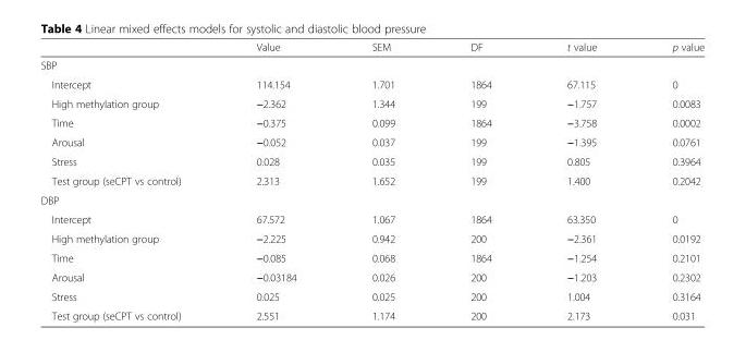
<table><thead><tr><td></td><td>Value</td><td>SEM</td><td>DF</td><td>t value</td><td>p value</td></tr></thead><tbody><tr><td colspan="6">SBP</td></tr><tr><td>Intercept</td><td>114.154</td><td>1.701</td><td>1864</td><td>67.115</td><td>0</td></tr><tr><td>High methylation group</td><td>−2.362</td><td>1.344</td><td>199</td><td>−1.757</td><td>0.0083</td></tr><tr><td>Time</td><td>−0.375</td><td>0.099</td><td>1864</td><td>−3.758</td><td>0.0002</td></tr><tr><td>Arousal</td><td>−0.052</td><td>0.037</td><td>199</td><td>−1.395</td><td>0.0761</td></tr><tr><td>Stress</td><td>0.028</td><td>0.035</td><td>199</td><td>0.805</td><td>0.3964</td></tr><tr><td>Test group (seCPT vs control)</td><td>2.313</td><td>1.652</td><td>199</td><td>1.400</td><td>0.2042</td></tr><tr><td colspan="6">DBP</td></tr><tr><td>Intercept</td><td>67.572</td><td>1.067</td><td>1864</td><td>63.350</td><td>0</td></tr><tr><td>High methylation group</td><td>−2.225</td><td>0.942</td><td>200</td><td>−2.361</td><td>0.0192</td></tr><tr><td>Time</td><td>−0.085</td><td>0.068</td><td>1864</td><td>−1.254</td><td>0.2101</td></tr><tr><td>Arousal</td><td>−0.03184</td><td>0.026</td><td>200</td><td>−1.203</td><td>0.2302</td></tr><tr><td>Stress</td><td>0.025</td><td>0.025</td><td>200</td><td>1.004</td><td>0.3164</td></tr><tr><td>Test group (seCPT vs control)</td><td>2.551</td><td>1.174</td><td>200</td><td>2.173</td><td>0.031</td></tr></tbody></table>